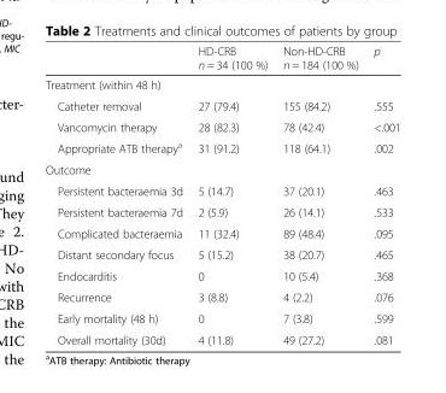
<table><thead><tr><td></td><td>HD-CRB n = 34 (100 %)</td><td>Non-HD-CRB n = 184 (100 %)</td><td>p</td></tr></thead><tbody><tr><td colspan="4">Treatment (within 48 h)</td></tr><tr><td>Catheter removal</td><td>27 (79.4)</td><td>155 (84.2)</td><td>.555</td></tr><tr><td>Vancomycin therapy</td><td>28 (82.3)</td><td>78 (42.4)</td><td>&lt;.001</td></tr><tr><td>Appropriate ATB therapy<sup>a</sup></td><td>31 (91.2)</td><td>118 (64.1)</td><td>.002</td></tr><tr><td colspan="4">Outcome</td></tr><tr><td>Persistent bacteraemia 3d</td><td>5 (14.7)</td><td>37 (20.1)</td><td>.463</td></tr><tr><td>Persistent bacteraemia 7d</td><td>2 (5.9)</td><td>26 (14.1)</td><td>.533</td></tr><tr><td>Complicated bacteraemia</td><td>11 (32.4)</td><td>89 (48.4)</td><td>.095</td></tr><tr><td>Distant secondary focus</td><td>5 (15.2)</td><td>38 (20.7)</td><td>.465</td></tr><tr><td>Endocarditis</td><td>0</td><td>10 (5.4)</td><td>.368</td></tr><tr><td>Recurrence</td><td>3 (8.8)</td><td>4 (2.2)</td><td>.076</td></tr><tr><td>Early mortality (48 h)</td><td>0</td><td>7 (3.8)</td><td>.599</td></tr><tr><td>Overall mortality (30d)</td><td>4 (11.8)</td><td>49 (27.2)</td><td>.081</td></tr></tbody></table>